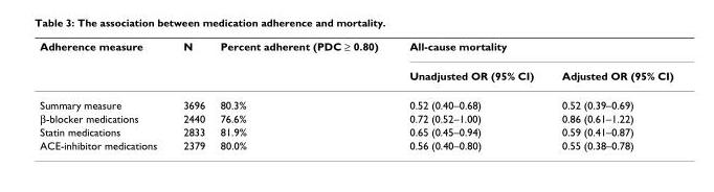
<table><thead><tr><td rowspan="2">Adherence measure</td><td rowspan="2">N</td><td rowspan="2">Percent adherent (PDC ≥ 0.80)</td><td colspan="2">All-cause mortality</td></tr><tr><td>Unadjusted OR (95% CI)</td><td>Adjusted OR (95% CI)</td></tr></thead><tbody><tr><td>Summary measure</td><td>3696</td><td>80.3%</td><td>0.52 (0.40–0.68)</td><td>0.52 (0.39–0.69)</td></tr><tr><td>β-blocker medications</td><td>2440</td><td>76.6%</td><td>0.72 (0.52–1.00)</td><td>0.86 (0.61–1.22)</td></tr><tr><td>Statin medications</td><td>2833</td><td>81.9%</td><td>0.65 (0.45–0.94)</td><td>0.59 (0.41–0.87)</td></tr><tr><td>ACE-inhibitor medications</td><td>2379</td><td>80.0%</td><td>0.56 (0.40–0.80)</td><td>0.55 (0.38–0.78)</td></tr></tbody></table>